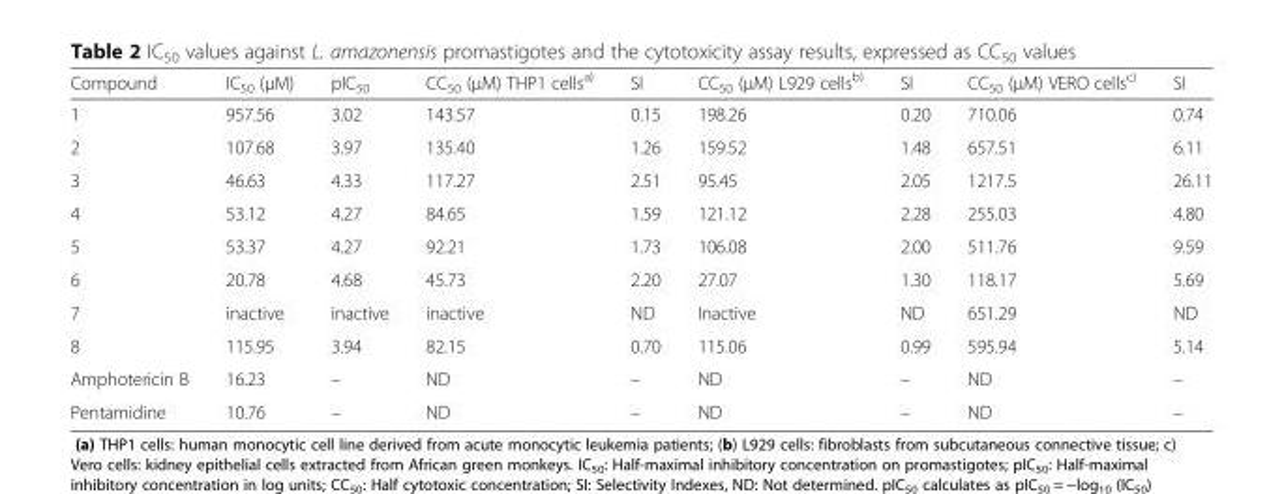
<table><thead><tr><td>Compound</td><td>IC<sub>50</sub> (μM)</td><td>pIC<sub>50</sub></td><td>CC<sub>50</sub> (μM) THP1 cells<sup>a)</sup></td><td>SI</td><td>CC<sub>50</sub> (μM) L929 cells<sup>b)</sup></td><td>SI</td><td>CC<sub>50</sub> (μM) VERO cells<sup>c)</sup></td><td>SI</td></tr></thead><tbody><tr><td>1</td><td>957.56</td><td>3.02</td><td>143.57</td><td>0.15</td><td>198.26</td><td>0.20</td><td>710.06</td><td>0.74</td></tr><tr><td>2</td><td>107.68</td><td>3.97</td><td>135.40</td><td>1.26</td><td>159.52</td><td>1.48</td><td>657.51</td><td>6.11</td></tr><tr><td>3</td><td>46.63</td><td>4.33</td><td>117.27</td><td>2.51</td><td>95.45</td><td>2.05</td><td>1217.5</td><td>26.11</td></tr><tr><td>4</td><td>53.12</td><td>4.27</td><td>84.65</td><td>1.59</td><td>121.12</td><td>2.28</td><td>255.03</td><td>4.80</td></tr><tr><td>5</td><td>53.37</td><td>4.27</td><td>92.21</td><td>1.73</td><td>106.08</td><td>2.00</td><td>511.76</td><td>9.59</td></tr><tr><td>6</td><td>20.78</td><td>4.68</td><td>45.73</td><td>2.20</td><td>27.07</td><td>1.30</td><td>118.17</td><td>5.69</td></tr><tr><td>7</td><td>inactive</td><td>inactive</td><td>inactive</td><td>ND</td><td>Inactive</td><td>ND</td><td>651.29</td><td>ND</td></tr><tr><td>8</td><td>115.95</td><td>3.94</td><td>82.15</td><td>0.70</td><td>115.06</td><td>0.99</td><td>595.94</td><td>5.14</td></tr><tr><td>Amphotericin B</td><td>16.23</td><td>–</td><td>ND</td><td>–</td><td>ND</td><td>–</td><td>ND</td><td>–</td></tr><tr><td>Pentamidine</td><td>10.76</td><td>–</td><td>ND</td><td>–</td><td>ND</td><td>–</td><td>ND</td><td>–</td></tr></tbody></table>